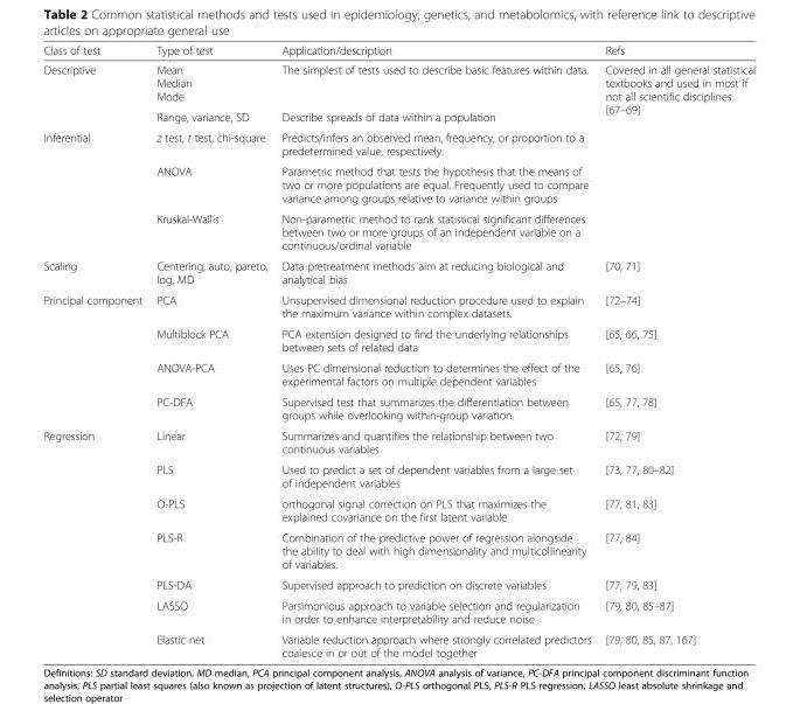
<table><thead><tr><td>Class of test</td><td>Type of test</td><td>Application/description</td><td>Refs</td></tr></thead><tbody><tr><td rowspan="2">Descriptive</td><td>Mean Median Mode</td><td>The simplest of tests used to describe basic features within data.</td><td rowspan="5">Covered in all general statistical textbooks and used in most if not all scientific disciplines. [67–69]</td></tr><tr><td>Range, variance, SD</td><td>Describe spreads of data within a population</td></tr><tr><td rowspan="3">Inferential</td><td>z test, t test, chi-square</td><td>Predicts/infers an observed mean, frequency, or proportion to a predetermined value, respectively.</td></tr><tr><td>ANOVA</td><td>Parametric method that tests the hypothesis that the means of two or more populations are equal. Frequently used to compare variance among groups relative to variance within groups</td></tr><tr><td>Kruskal-Wallis</td><td>Non-parametric method to rank statistical significant differences between two or more groups of an independent variable on a continuous/ordinal variable</td></tr><tr><td>Scaling</td><td>Centering, auto, pareto, log, MD</td><td>Data pretreatment methods aim at reducing biological and analytical bias</td><td>[70, 71]</td></tr><tr><td rowspan="4">Principal component</td><td>PCA</td><td>Unsupervised dimensional reduction procedure used to explain the maximum variance within complex datasets.</td><td>[72–74]</td></tr><tr><td>Multiblock PCA</td><td>PCA extension designed to find the underlying relationships between sets of related data</td><td>[65, 66, 75]</td></tr><tr><td>ANOVA-PCA</td><td>Uses PC dimensional reduction to determines the effect of the experimental factors on multiple dependent variables</td><td>[65, 76]</td></tr><tr><td>PC-DFA</td><td>Supervised test that summarizes the differentiation between groups while overlooking within-group variation.</td><td>[65, 77, 78]</td></tr><tr><td rowspan="7">Regression</td><td>Linear</td><td>Summarizes and quantifies the relationship between two continuous variables</td><td>[72, 79]</td></tr><tr><td>PLS</td><td>Used to predict a set of dependent variables from a large set of independent variables</td><td>[73, 77, 80–82]</td></tr><tr><td>O-PLS</td><td>orthogonal signal correction on PLS that maximizes the explained covariance on the first latent variable</td><td>[77, 81, 83]</td></tr><tr><td>PLS-R</td><td>Combination of the predictive power of regression alongside the ability to deal with high dimensionality and multicollinearity of variables.</td><td>[77, 84]</td></tr><tr><td>PLS-DA</td><td>Supervised approach to prediction on discrete variables</td><td>[77, 79, 83]</td></tr><tr><td>LASSO</td><td>Parsimonious approach to variable selection and regularization in order to enhance interpretability and reduce noise</td><td>[79, 80, 85–87]</td></tr><tr><td>Elastic net</td><td>Variable reduction approach where strongly correlated predictors coalesce in or out of the model together</td><td>[79, 80, 85, 87, 167]</td></tr></tbody></table>